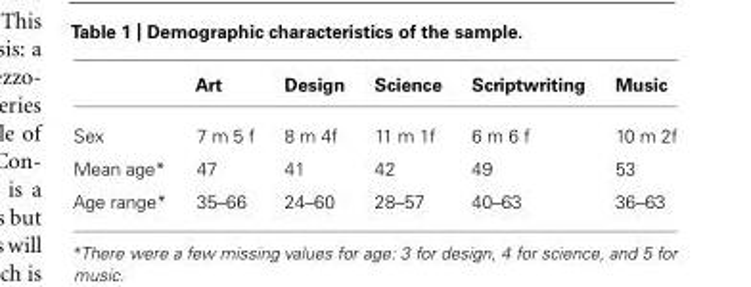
<table><thead><tr><td></td><td>Art</td><td>Design</td><td>Science</td><td>Scriptwriting</td><td>Music</td></tr></thead><tbody><tr><td>Sex</td><td>7 m 5 f</td><td>8 m 4f</td><td>11 m 1f</td><td>6 m 6 f</td><td>10 m 2f</td></tr><tr><td>Mean age*</td><td>47</td><td>41</td><td>42</td><td>49</td><td>53</td></tr><tr><td>Age range*</td><td>35–66</td><td>24–60</td><td>28–57</td><td>40–63</td><td>36–63</td></tr></tbody></table>